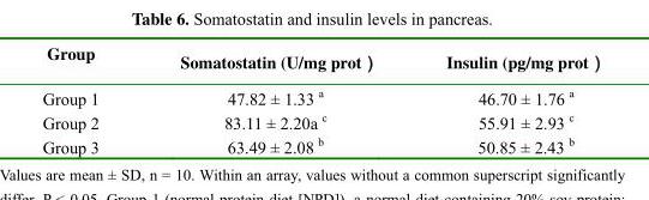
<table><thead><tr><td>Group</td><td>Somatostatin (U/mg prot）</td><td>Insulin (pg/mg prot）</td></tr></thead><tbody><tr><td>Group 1</td><td>47.82 ± 1.33 <sup>a</sup></td><td>46.70 ± 1.76 <sup>a</sup></td></tr><tr><td>Group 2</td><td>83.11 ± 2.20a <sup>c</sup></td><td>55.91 ± 2.93 <sup>c</sup></td></tr><tr><td>Group 3</td><td>63.49 ± 2.08 <sup>b</sup></td><td>50.85 ± 2.43 <sup>b</sup></td></tr></tbody></table>